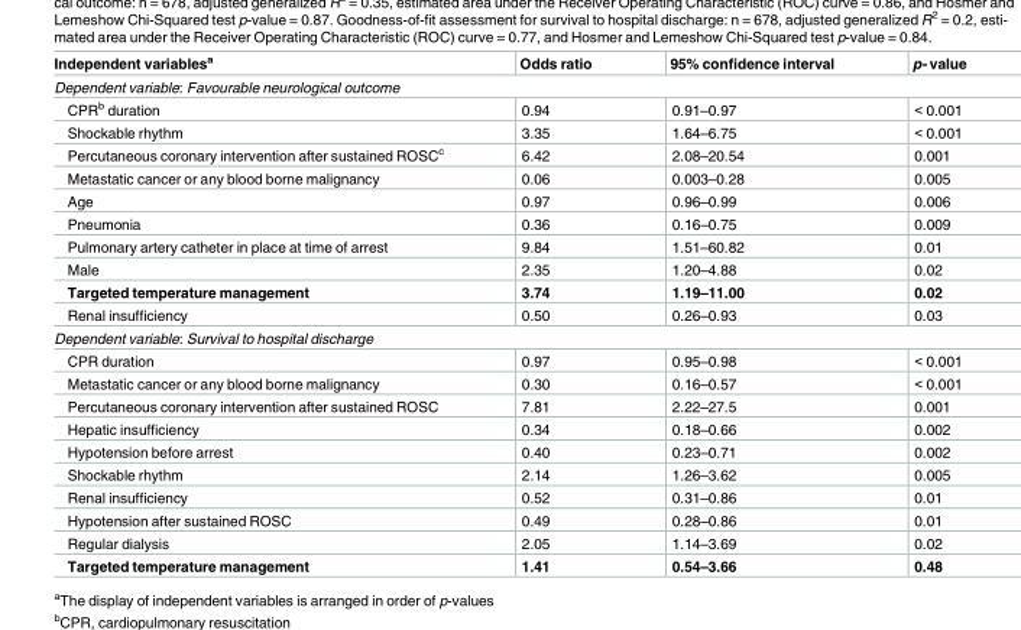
<table><thead><tr><td>Independent variables<sup>a</sup></td><td>Odds ratio</td><td>95% confidence interval</td><td>p- value</td></tr></thead><tbody><tr><td colspan="4">Dependent variable: Favourable neurological outcome</td></tr><tr><td>CPR<sup>b</sup> duration</td><td>0.94</td><td>0.91–0.97</td><td>&lt; 0.001</td></tr><tr><td>Shockable rhythm</td><td>3.35</td><td>1.64–6.75</td><td>&lt; 0.001</td></tr><tr><td>Percutaneous coronary intervention after sustained ROSC<sup>c</sup></td><td>6.42</td><td>2.08–20.54</td><td>0.001</td></tr><tr><td>Metastatic cancer or any blood borne malignancy</td><td>0.06</td><td>0.003–0.28</td><td>0.005</td></tr><tr><td>Age</td><td>0.97</td><td>0.96–0.99</td><td>0.006</td></tr><tr><td>Pneumonia</td><td>0.36</td><td>0.16–0.75</td><td>0.009</td></tr><tr><td>Pulmonary artery catheter in place at time of arrest</td><td>9.84</td><td>1.51–60.82</td><td>0.01</td></tr><tr><td>Male</td><td>2.35</td><td>1.20–4.88</td><td>0.02</td></tr><tr><td>Targeted temperature management</td><td>3.74</td><td>1.19–11.00</td><td>0.02</td></tr><tr><td>Renal insufficiency</td><td>0.50</td><td>0.26–0.93</td><td>0.03</td></tr><tr><td colspan="4">Dependent variable: Survival to hospital discharge</td></tr><tr><td>CPR duration</td><td>0.97</td><td>0.95–0.98</td><td>&lt; 0.001</td></tr><tr><td>Metastatic cancer or any blood borne malignancy</td><td>0.30</td><td>0.16–0.57</td><td>&lt; 0.001</td></tr><tr><td>Percutaneous coronary intervention after sustained ROSC</td><td>7.81</td><td>2.22–27.5</td><td>0.001</td></tr><tr><td>Hepatic insufficiency</td><td>0.34</td><td>0.18–0.66</td><td>0.002</td></tr><tr><td>Hypotension before arrest</td><td>0.40</td><td>0.23–0.71</td><td>0.002</td></tr><tr><td>Shockable rhythm</td><td>2.14</td><td>1.26–3.62</td><td>0.005</td></tr><tr><td>Renal insufficiency</td><td>0.52</td><td>0.31–0.86</td><td>0.01</td></tr><tr><td>Hypotension after sustained ROSC</td><td>0.49</td><td>0.28–0.86</td><td>0.01</td></tr><tr><td>Regular dialysis</td><td>2.05</td><td>1.14–3.69</td><td>0.02</td></tr><tr><td>Targeted temperature management</td><td>1.41</td><td>0.54–3.66</td><td>0.48</td></tr></tbody></table>